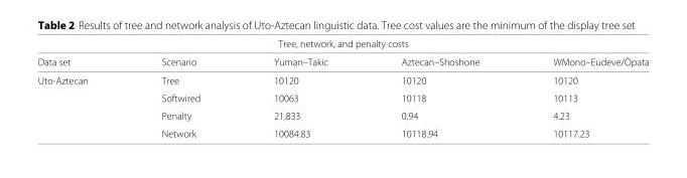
<table><thead><tr><td colspan="5">Tree, network, and penalty costs</td></tr><tr><td>Data set</td><td>Scenario</td><td>Yuman–Takic</td><td>Aztecan–Shoshone</td><td>WMono–Eudeve/Òpata</td></tr></thead><tbody><tr><td rowspan="4">Uto-Aztecan</td><td>Tree</td><td>10120</td><td>10120</td><td>10120</td></tr><tr><td>Softwired</td><td>10063</td><td>10118</td><td>10113</td></tr><tr><td>Penalty</td><td>21.833</td><td>0.94</td><td>4.23</td></tr><tr><td>Network</td><td>10084.83</td><td>10118.94</td><td>10117.23</td></tr></tbody></table>